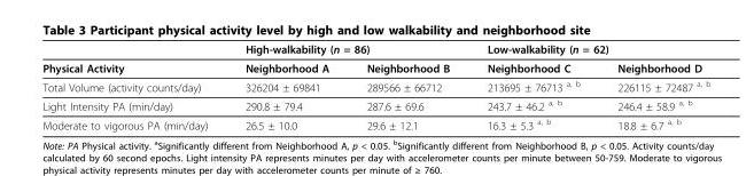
<table><thead><tr><td rowspan="2">Physical Activity</td><td colspan="2">High-walkability (n = 86)</td><td colspan="2">Low-walkability (n = 62)</td></tr><tr><td>Neighborhood A</td><td>Neighborhood B</td><td>Neighborhood C</td><td>Neighborhood D</td></tr></thead><tbody><tr><td>Total Volume (activity counts/day)</td><td>326204 ± 69841</td><td>289566 ± 66712</td><td>213695 ± 76713 <sup>a, b</sup></td><td>226115 ± 72487 <sup>a, b</sup></td></tr><tr><td>Light Intensity PA (min/day)</td><td>290.8 ± 79.4</td><td>287.6 ± 69.6</td><td>243.7 ± 46.2 <sup>a, b</sup></td><td>246.4 ± 58.9 <sup>a, b</sup></td></tr><tr><td>Moderate to vigorous PA (min/day)</td><td>26.5 ± 10.0</td><td>29.6 ± 12.1</td><td>16.3 ± 5.3 <sup>a, b</sup></td><td>18.8 ± 6.7 <sup>a, b</sup></td></tr></tbody></table>